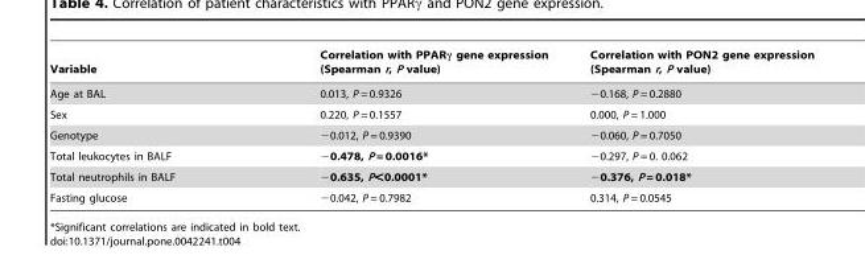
<table><thead><tr><td>Variable</td><td>Correlation with PPARγ gene expression (Spearman r, P value)</td><td>Correlation with PON2 gene expression (Spearman r, P value)</td></tr></thead><tbody><tr><td>Age at BAL</td><td>0.013, P = 0.9326</td><td>−0.168, P = 0.2880</td></tr><tr><td>Sex</td><td>0.220, P = 0.1557</td><td>0.000, P = 1.000</td></tr><tr><td>Genotype</td><td>−0.012, P = 0.9390</td><td>−0.060, P = 0.7050</td></tr><tr><td>Total leukocytes in BALF</td><td>−0.478, P = 0.0016*</td><td>−0.297, P = 0. 0.062</td></tr><tr><td>Total neutrophils in BALF</td><td>−0.635, P&lt;0.0001*</td><td>−0.376, P = 0.018*</td></tr><tr><td>Fasting glucose</td><td>−0.042, P = 0.7982</td><td>0.314, P = 0.0545</td></tr></tbody></table>